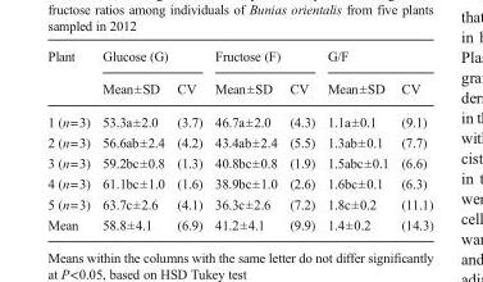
<table><thead><tr><td rowspan="2">Plant</td><td colspan="2">Glucose (G)</td><td colspan="2">Fructose (F)</td><td colspan="2">G/F</td></tr><tr><td>Mean±SD</td><td>CV</td><td>Mean±SD</td><td>CV</td><td>Mean±SD</td><td>CV</td></tr></thead><tbody><tr><td>1 (n=3)</td><td>53.3a±2.0</td><td>(3.7)</td><td>46.7a±2.0</td><td>(4.3)</td><td>1.1a±0.1</td><td>(9.1)</td></tr><tr><td>2 (n=3)</td><td>56.6ab±2.4</td><td>(4.2)</td><td>43.4ab±2.4</td><td>(5.5)</td><td>1.3ab±0.1</td><td>(7.7)</td></tr><tr><td>3 (n=3)</td><td>59.2bc±0.8</td><td>(1.3)</td><td>40.8bc±0.8</td><td>(1.9)</td><td>1.5abc±0.1</td><td>(6.6)</td></tr><tr><td>4 (n=3)</td><td>61.1bc±1.0</td><td>(1.6)</td><td>38.9bc±1.0</td><td>(2.6)</td><td>1.6bc±0.1</td><td>(6.3)</td></tr><tr><td>5 (n=3)</td><td>63.7c±2.6</td><td>(4.1)</td><td>36.3c±2.6</td><td>(7.2)</td><td>1.8c±0.2</td><td>(11.1)</td></tr><tr><td>Mean</td><td>58.8±4.1</td><td>(6.9)</td><td>41.2±4.1</td><td>(9.9)</td><td>1.4±0.2</td><td>(14.3)</td></tr></tbody></table>